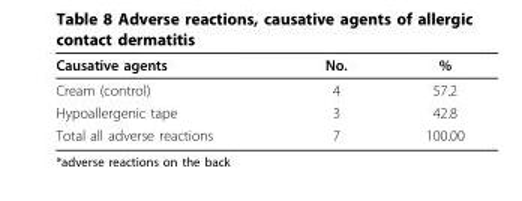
<table><thead><tr><td>Causative agents</td><td>No.</td><td>%</td></tr></thead><tbody><tr><td>Cream (control)</td><td>4</td><td>57.2</td></tr><tr><td>Hypoallergenic tape</td><td>3</td><td>42.8</td></tr><tr><td>Total all adverse reactions</td><td>7</td><td>100.00</td></tr></tbody></table>